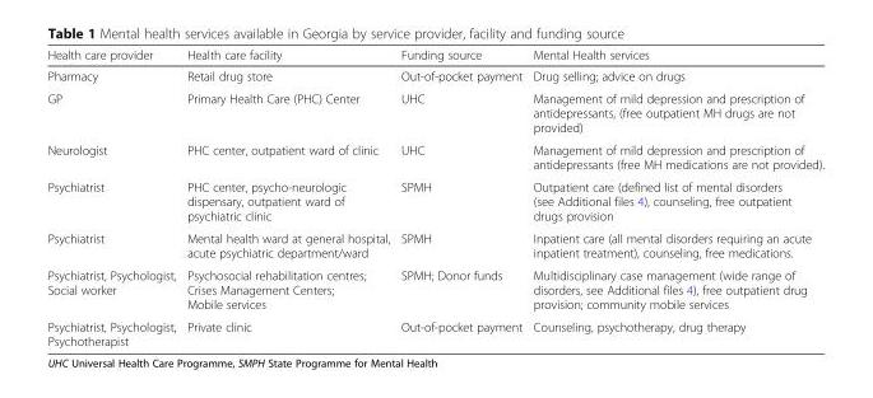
<table><thead><tr><td>Health care provider</td><td>Health care facility</td><td>Funding source</td><td>Mental Health services</td></tr></thead><tbody><tr><td>Pharmacy</td><td>Retail drug store</td><td>Out-of-pocket payment</td><td>Drug selling; advice on drugs</td></tr><tr><td>GP</td><td>Primary Health Care (PHC) Center</td><td>UHC</td><td>Management of mild depression and prescription of antidepressants, (free outpatient MH drugs are not provided)</td></tr><tr><td>Neurologist</td><td>PHC center, outpatient ward of clinic</td><td>UHC</td><td>Management of mild depression and prescription of antidepressants (free MH medications are not provided).</td></tr><tr><td>Psychiatrist</td><td>PHC center, psycho-neurologic dispensary, outpatient ward of psychiatric clinic</td><td>SPMH</td><td>Outpatient care (defined list of mental disorders (see Additional files 4), counseling, free outpatient drugs provision</td></tr><tr><td>Psychiatrist</td><td>Mental health ward at general hospital, acute psychiatric department/ward</td><td>SPMH</td><td>Inpatient care (all mental disorders requiring an acute inpatient treatment), counseling, free medications.</td></tr><tr><td>Psychiatrist, Psychologist, Social worker</td><td>Psychosocial rehabilitation centres; Crises Management Centers; Mobile services</td><td>SPMH; Donor funds</td><td>Multidisciplinary case management (wide range of disorders, see Additional files 4), free outpatient drug provision; community mobile services</td></tr><tr><td>Psychiatrist, Psychologist, Psychotherapist</td><td>Private clinic</td><td>Out-of-pocket payment</td><td>Counseling, psychotherapy, drug therapy</td></tr></tbody></table>